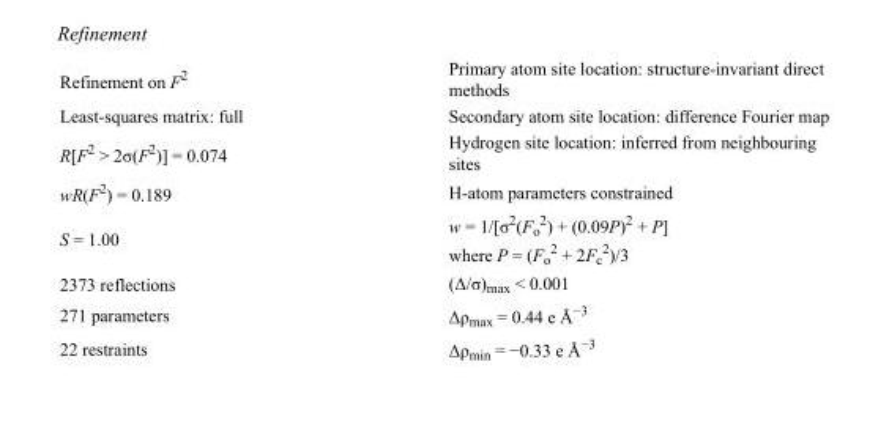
<table><tbody><tr><td>Refinement on F<sup>2</sup></td><td>Primary atom site location: structure-invariant direct methods</td></tr><tr><td>Least-squares matrix: full</td><td>Secondary atom site location: difference Fourier map</td></tr><tr><td>R[F<sup>2</sup> &gt; 2σ(F<sup>2</sup>)] = 0.074</td><td>Hydrogen site location: inferred from neighbouring sites</td></tr><tr><td>wR(F<sup>2</sup>) = 0.189</td><td>H-atom parameters constrained</td></tr><tr><td>S = 1.00</td><td>w = 1/[σ<sup>2</sup>(F<sub>o</sub> <sup>2</sup>) + (0.09P)<sup>2</sup> + P] where P = (F<sub>o</sub> <sup>2</sup> + 2F<sub>c</sub> <sup>2</sup>)/3</td></tr><tr><td>2373 reflections</td><td>(Δ/σ)<sub>max</sub> &lt; 0.001</td></tr><tr><td>271 parameters</td><td>Δρ<sub>max</sub> = 0.44 e Å<sup>−3</sup></td></tr><tr><td>22 restraints</td><td>Δρ<sub>min</sub> = −0.33 e Å<sup>−3</sup></td></tr></tbody></table>